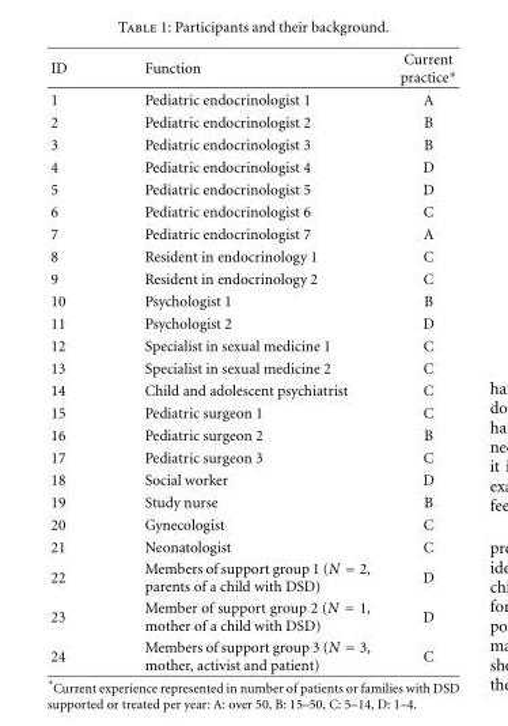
<table><thead><tr><td>ID</td><td>Function</td><td>Current practice∗</td></tr></thead><tbody><tr><td>1</td><td>Pediatric endocrinologist 1</td><td>A</td></tr><tr><td>2</td><td>Pediatric endocrinologist 2</td><td>B</td></tr><tr><td>3</td><td>Pediatric endocrinologist 3</td><td>B</td></tr><tr><td>4</td><td>Pediatric endocrinologist 4</td><td>D</td></tr><tr><td>5</td><td>Pediatric endocrinologist 5</td><td>D</td></tr><tr><td>6</td><td>Pediatric endocrinologist 6</td><td>C</td></tr><tr><td>7</td><td>Pediatric endocrinologist 7</td><td>A</td></tr><tr><td>8</td><td>Resident in endocrinology 1</td><td>C</td></tr><tr><td>9</td><td>Resident in endocrinology 2</td><td>C</td></tr><tr><td>10</td><td>Psychologist 1</td><td>B</td></tr><tr><td>11</td><td>Psychologist 2</td><td>D</td></tr><tr><td>12</td><td>Specialist in sexual medicine 1</td><td>C</td></tr><tr><td>13</td><td>Specialist in sexual medicine 2</td><td>C</td></tr><tr><td>14</td><td>Child and adolescent psychiatrist</td><td>C</td></tr><tr><td>15</td><td>Pediatric surgeon 1</td><td>C</td></tr><tr><td>16</td><td>Pediatric surgeon 2</td><td>B</td></tr><tr><td>17</td><td>Pediatric surgeon 3</td><td>C</td></tr><tr><td>18</td><td>Social worker</td><td>D</td></tr><tr><td>19</td><td>Study nurse</td><td>B</td></tr><tr><td>20</td><td>Gynecologist</td><td>C</td></tr><tr><td>21</td><td>Neonatologist</td><td>C</td></tr><tr><td>22</td><td>Members of support group 1 (N = 2, parents of a child with DSD)</td><td>D</td></tr><tr><td>23</td><td>Member of support group 2 (N = 1, mother of a child with DSD)</td><td>D</td></tr><tr><td>24</td><td>Members of support group 3 (N = 3, mother, activist and patient)</td><td>C</td></tr></tbody></table>